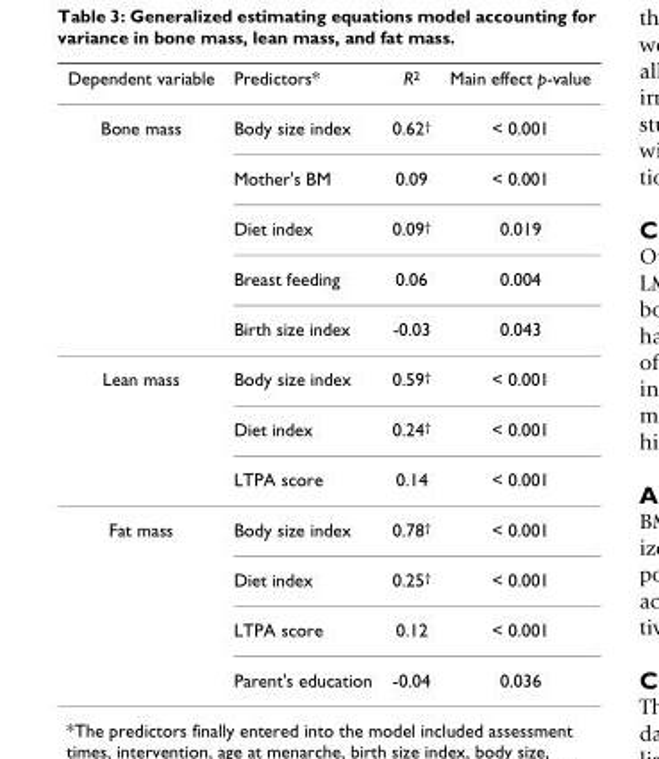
<table><thead><tr><td>Dependent variable</td><td>Predictors*</td><td>R<sup>2</sup></td><td>Main effect p-value</td></tr></thead><tbody><tr><td rowspan="5">Bone mass</td><td>Body size index</td><td>0.62<sup>†</sup></td><td>&lt; 0.001</td></tr><tr><td>Mother&#x27;s BM</td><td>0.09</td><td>&lt; 0.001</td></tr><tr><td>Diet index</td><td>0.09<sup>†</sup></td><td>0.019</td></tr><tr><td>Breast feeding</td><td>0.06</td><td>0.004</td></tr><tr><td>Birth size index</td><td>-0.03</td><td>0.043</td></tr><tr><td rowspan="3">Lean mass</td><td>Body size index</td><td>0.59<sup>†</sup></td><td>&lt; 0.001</td></tr><tr><td>Diet index</td><td>0.24<sup>†</sup></td><td>&lt; 0.001</td></tr><tr><td>LTPA score</td><td>0.14</td><td>&lt; 0.001</td></tr><tr><td rowspan="4">Fat mass</td><td>Body size index</td><td>0.78<sup>†</sup></td><td>&lt; 0.001</td></tr><tr><td>Diet index</td><td>0.25<sup>†</sup></td><td>&lt; 0.001</td></tr><tr><td>LTPA score</td><td>0.12</td><td>&lt; 0.001</td></tr><tr><td>Parent&#x27;s education</td><td>-0.04</td><td>0.036</td></tr></tbody></table>